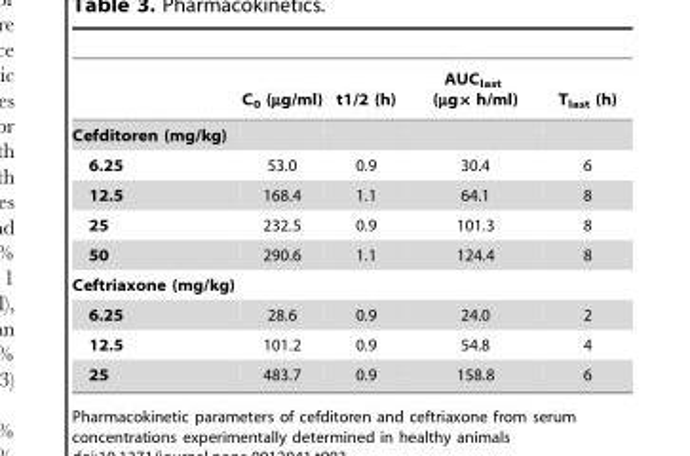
<table><thead><tr><td></td><td>C<sub>0</sub> (µg/ml)</td><td>t1/2 (h)</td><td>AUC<sub>last</sub> (µg× h/ml)</td><td>T<sub>last</sub> (h)</td></tr></thead><tbody><tr><td colspan="5">Cefditoren (mg/kg)</td></tr><tr><td>6.25</td><td>53.0</td><td>0.9</td><td>30.4</td><td>6</td></tr><tr><td>12.5</td><td>168.4</td><td>1.1</td><td>64.1</td><td>8</td></tr><tr><td>25</td><td>232.5</td><td>0.9</td><td>101.3</td><td>8</td></tr><tr><td>50</td><td>290.6</td><td>1.1</td><td>124.4</td><td>8</td></tr><tr><td colspan="5">Ceftriaxone (mg/kg)</td></tr><tr><td>6.25</td><td>28.6</td><td>0.9</td><td>24.0</td><td>2</td></tr><tr><td>12.5</td><td>101.2</td><td>0.9</td><td>54.8</td><td>4</td></tr><tr><td>25</td><td>483.7</td><td>0.9</td><td>158.8</td><td>6</td></tr></tbody></table>